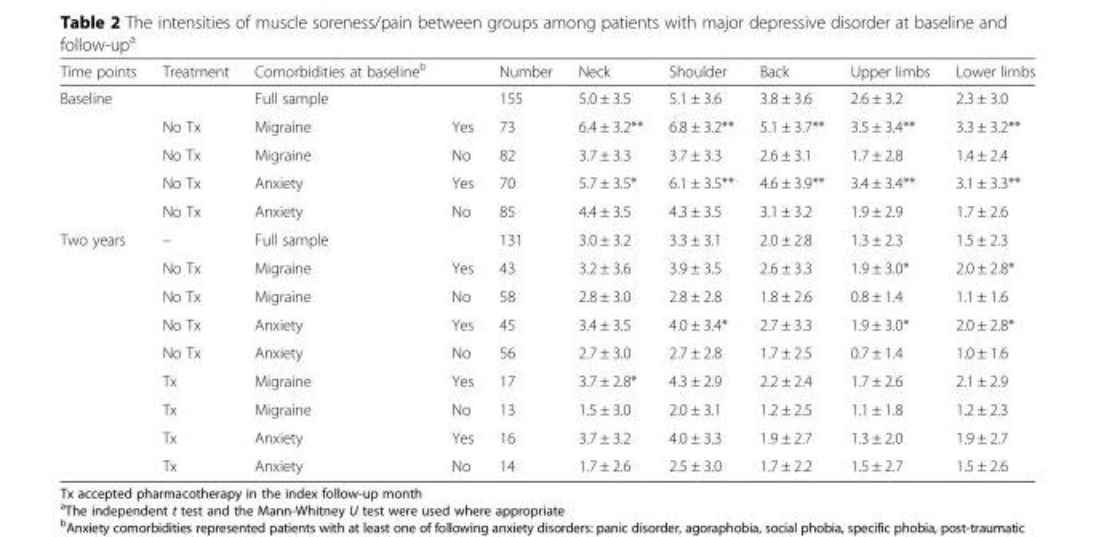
<table><thead><tr><td>Time points</td><td>Treatment</td><td>Comorbidities at baseline<sup>b</sup></td><td></td><td>Number</td><td>Neck</td><td>Shoulder</td><td>Back</td><td>Upper limbs</td><td>Lower limbs</td></tr></thead><tbody><tr><td rowspan="5">Baseline</td><td></td><td colspan="2">Full sample</td><td>155</td><td>5.0 ± 3.5</td><td>5.1 ± 3.6</td><td>3.8 ± 3.6</td><td>2.6 ± 3.2</td><td>2.3 ± 3.0</td></tr><tr><td>No Tx</td><td>Migraine</td><td>Yes</td><td>73</td><td>6.4 ± 3.2**</td><td>6.8 ± 3.2**</td><td>5.1 ± 3.7**</td><td>3.5 ± 3.4**</td><td>3.3 ± 3.2**</td></tr><tr><td>No Tx</td><td>Migraine</td><td>No</td><td>82</td><td>3.7 ± 3.3</td><td>3.7 ± 3.3</td><td>2.6 ± 3.1</td><td>1.7 ± 2.8</td><td>1.4 ± 2.4</td></tr><tr><td>No Tx</td><td>Anxiety</td><td>Yes</td><td>70</td><td>5.7 ± 3.5*</td><td>6.1 ± 3.5**</td><td>4.6 ± 3.9**</td><td>3.4 ± 3.4**</td><td>3.1 ± 3.3**</td></tr><tr><td>No Tx</td><td>Anxiety</td><td>No</td><td>85</td><td>4.4 ± 3.5</td><td>4.3 ± 3.5</td><td>3.1 ± 3.2</td><td>1.9 ± 2.9</td><td>1.7 ± 2.6</td></tr><tr><td rowspan="9">Two years</td><td>–</td><td colspan="2">Full sample</td><td>131</td><td>3.0 ± 3.2</td><td>3.3 ± 3.1</td><td>2.0 ± 2.8</td><td>1.3 ± 2.3</td><td>1.5 ± 2.3</td></tr><tr><td>No Tx</td><td>Migraine</td><td>Yes</td><td>43</td><td>3.2 ± 3.6</td><td>3.9 ± 3.5</td><td>2.6 ± 3.3</td><td>1.9 ± 3.0*</td><td>2.0 ± 2.8*</td></tr><tr><td>No Tx</td><td>Migraine</td><td>No</td><td>58</td><td>2.8 ± 3.0</td><td>2.8 ± 2.8</td><td>1.8 ± 2.6</td><td>0.8 ± 1.4</td><td>1.1 ± 1.6</td></tr><tr><td>No Tx</td><td>Anxiety</td><td>Yes</td><td>45</td><td>3.4 ± 3.5</td><td>4.0 ± 3.4*</td><td>2.7 ± 3.3</td><td>1.9 ± 3.0*</td><td>2.0 ± 2.8*</td></tr><tr><td>No Tx</td><td>Anxiety</td><td>No</td><td>56</td><td>2.7 ± 3.0</td><td>2.7 ± 2.8</td><td>1.7 ± 2.5</td><td>0.7 ± 1.4</td><td>1.0 ± 1.6</td></tr><tr><td>Tx</td><td>Migraine</td><td>Yes</td><td>17</td><td>3.7 ± 2.8*</td><td>4.3 ± 2.9</td><td>2.2 ± 2.4</td><td>1.7 ± 2.6</td><td>2.1 ± 2.9</td></tr><tr><td>Tx</td><td>Migraine</td><td>No</td><td>13</td><td>1.5 ± 3.0</td><td>2.0 ± 3.1</td><td>1.2 ± 2.5</td><td>1.1 ± 1.8</td><td>1.2 ± 2.3</td></tr><tr><td>Tx</td><td>Anxiety</td><td>Yes</td><td>16</td><td>3.7 ± 3.2</td><td>4.0 ± 3.3</td><td>1.9 ± 2.7</td><td>1.3 ± 2.0</td><td>1.9 ± 2.7</td></tr><tr><td>Tx</td><td>Anxiety</td><td>No</td><td>14</td><td>1.7 ± 2.6</td><td>2.5 ± 3.0</td><td>1.7 ± 2.2</td><td>1.5 ± 2.7</td><td>1.5 ± 2.6</td></tr></tbody></table>